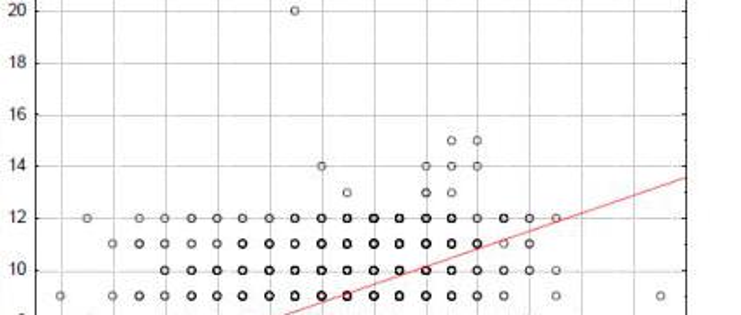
<table><thead><tr><td rowspan="2">Effect</td><td rowspan="2">Effect type</td><td rowspan="2">df Effect</td><td rowspan="2">df Error</td><td rowspan="2">F</td><td rowspan="2">P</td></tr><tr></tr></thead><tbody><tr><td>Sow ID</td><td>Random</td><td>455</td><td>936</td><td>1.28</td><td>0.001</td></tr><tr><td>Parity</td><td>Fixed (covariate)</td><td>1</td><td>467</td><td>0.37</td><td>0.544</td></tr><tr><td>Paddock ID</td><td>Random</td><td>68</td><td>869</td><td>1.00</td><td>0.475</td></tr><tr><td>Distance to native vegetation</td><td>Fixed (covariate)</td><td>1</td><td>30</td><td>0.06</td><td>0.816</td></tr><tr><td>Position on farm</td><td>Fixed</td><td>2</td><td>30</td><td>2.38</td><td>0.110</td></tr></tbody></table>